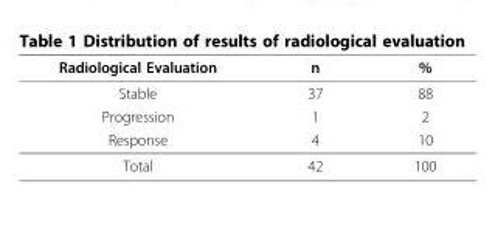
<table><thead><tr><td>Radiological Evaluation</td><td>n</td><td>%</td></tr></thead><tbody><tr><td>Stable</td><td>37</td><td>88</td></tr><tr><td>Progression</td><td>1</td><td>2</td></tr><tr><td>Response</td><td>4</td><td>10</td></tr><tr><td>Total</td><td>42</td><td>100</td></tr></tbody></table>